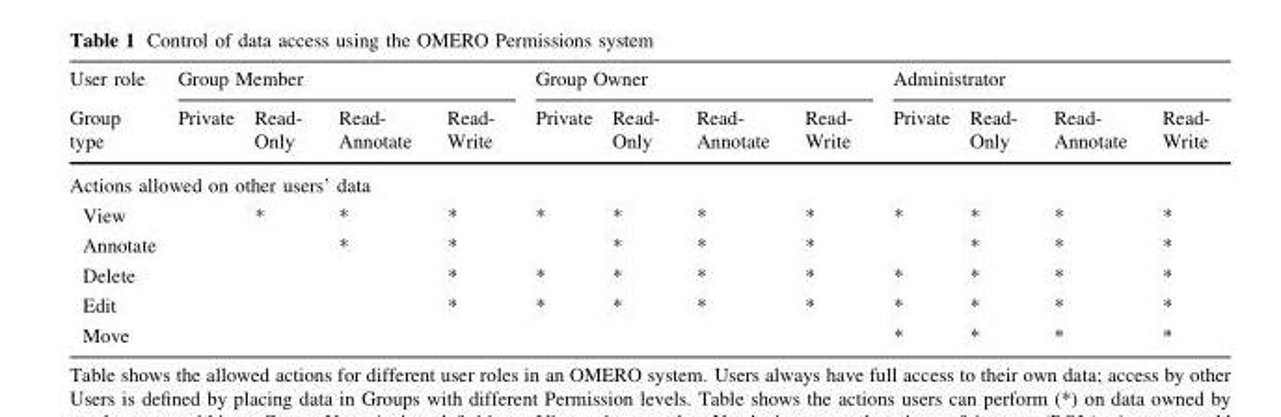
<table><thead><tr><td rowspan="2">User role Group type</td><td colspan="4">Group Member</td><td colspan="4">Group Owner</td><td colspan="4">Administrator</td></tr><tr><td>Private</td><td>Read- Only</td><td>Read- Annotate</td><td>Read- Write</td><td>Private</td><td>Read- Only</td><td>Read- Annotate</td><td>Read- Write</td><td>Private</td><td>Read- Only</td><td>Read- Annotate</td><td>Read- Write</td></tr></thead><tbody><tr><td colspan="13">Actions allowed on other users’ data</td></tr><tr><td>View</td><td></td><td>*</td><td>*</td><td>*</td><td>*</td><td>*</td><td>*</td><td>*</td><td>*</td><td>*</td><td>*</td><td>*</td></tr><tr><td>Annotate</td><td></td><td></td><td>*</td><td>*</td><td></td><td>*</td><td>*</td><td>*</td><td></td><td>*</td><td>*</td><td>*</td></tr><tr><td>Delete</td><td></td><td></td><td></td><td>*</td><td>*</td><td>*</td><td>*</td><td>*</td><td>*</td><td>*</td><td>*</td><td>*</td></tr><tr><td>Edit</td><td></td><td></td><td></td><td>*</td><td>*</td><td>*</td><td>*</td><td>*</td><td>*</td><td>*</td><td>*</td><td>*</td></tr><tr><td>Move</td><td></td><td></td><td></td><td></td><td></td><td></td><td></td><td></td><td>*</td><td>*</td><td>*</td><td>*</td></tr></tbody></table>